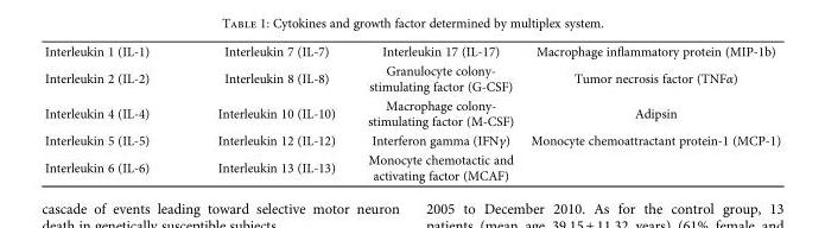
<table><tbody><tr><td>Interleukin 1 (IL-1)</td><td>Interleukin 7 (IL-7)</td><td>Interleukin 17 (IL-17)</td><td>Macrophage inflammatory protein (MIP-1b)</td></tr><tr><td>Interleukin 2 (IL-2)</td><td>Interleukin 8 (IL-8)</td><td>Granulocyte colony- stimulating factor (G-CSF)</td><td>Tumor necrosis factor (TNFα)</td></tr><tr><td>Interleukin 4 (IL-4)</td><td>Interleukin 10 (IL-10)</td><td>Macrophage colony- stimulating factor (M-CSF)</td><td>Adipsin</td></tr><tr><td>Interleukin 5 (IL-5)</td><td>Interleukin 12 (IL-12)</td><td>Interferon gamma (IFNγ)</td><td>Monocyte chemoattractant protein-1 (MCP-1)</td></tr><tr><td>Interleukin 6 (IL-6)</td><td>Interleukin 13 (IL-13)</td><td>Monocyte chemotactic and activating factor (MCAF)</td><td></td></tr></tbody></table>